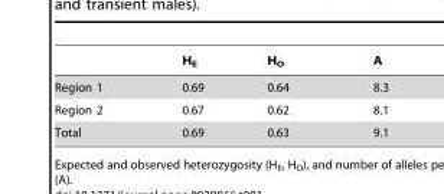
<table><thead><tr><td></td><td>H<sub>E</sub></td><td>H<sub>O</sub></td><td>A</td></tr></thead><tbody><tr><td>Region 1</td><td>0.69</td><td>0.64</td><td>8.3</td></tr><tr><td>Region 2</td><td>0.67</td><td>0.62</td><td>8.1</td></tr><tr><td>Total</td><td>0.69</td><td>0.63</td><td>9.1</td></tr></tbody></table>